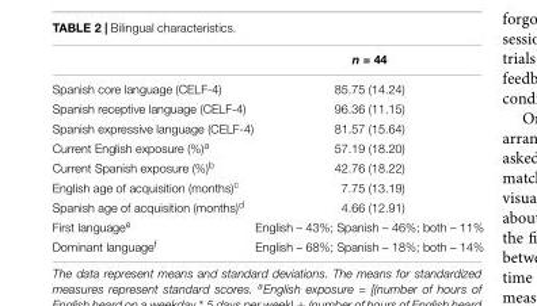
<table><thead><tr><td></td><td>n = 44</td></tr></thead><tbody><tr><td>Spanish core language (CELF-4)</td><td>85.75 (14.24)</td></tr><tr><td>Spanish receptive language (CELF-4)</td><td>96.36 (11.15)</td></tr><tr><td>Spanish expressive language (CELF-4)</td><td>81.57 (15.64)</td></tr><tr><td>Current English exposure (%)<sup>a</sup></td><td>57.19 (18.20)</td></tr><tr><td>Current Spanish exposure (%)<sup>b</sup></td><td>42.76 (18.22)</td></tr><tr><td>English age of acquisition (months)<sup>c</sup></td><td>7.75 (13.19)</td></tr><tr><td>Spanish age of acquisition (months)<sup>d</sup></td><td>4.66 (12.91)</td></tr><tr><td>First language<sup>e</sup></td><td>English – 43%; Spanish – 46%; both – 11%</td></tr><tr><td>Dominant language<sup>f</sup></td><td>English – 68%; Spanish – 18%; both – 14%</td></tr></tbody></table>